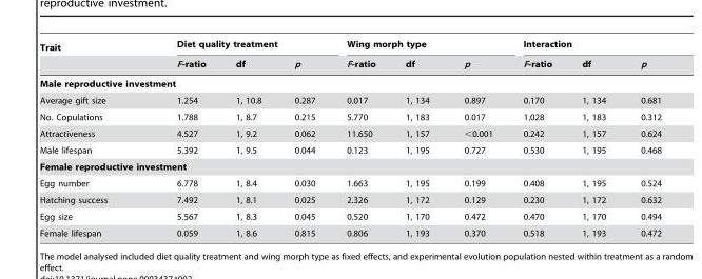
<table><thead><tr><td rowspan="2">Trait</td><td colspan="3">Diet quality treatment</td><td colspan="3">Wing morph type</td><td colspan="3">Interaction</td></tr><tr><td>F-ratio</td><td>df</td><td>p</td><td>F-ratio</td><td>df</td><td>p</td><td>F-ratio</td><td>df</td><td>p</td></tr></thead><tbody><tr><td colspan="10">Male reproductive investment</td></tr><tr><td>Average gift size</td><td>1.254</td><td>1, 10.8</td><td>0.287</td><td>0.017</td><td>1, 134</td><td>0.897</td><td>0.170</td><td>1, 134</td><td>0.681</td></tr><tr><td>No. Copulations</td><td>1.788</td><td>1, 8.7</td><td>0.215</td><td>5.770</td><td>1, 183</td><td>0.017</td><td>1.028</td><td>1, 183</td><td>0.312</td></tr><tr><td>Attractiveness</td><td>4.527</td><td>1, 9.2</td><td>0.062</td><td>11.650</td><td>1, 157</td><td>&lt;0.001</td><td>0.242</td><td>1, 157</td><td>0.624</td></tr><tr><td>Male lifespan</td><td>5.392</td><td>1, 9.5</td><td>0.044</td><td>0.123</td><td>1, 195</td><td>0.727</td><td>0.530</td><td>1, 195</td><td>0.468</td></tr><tr><td colspan="10">Female reproductive investment</td></tr><tr><td>Egg number</td><td>6.778</td><td>1, 8.4</td><td>0.030</td><td>1.663</td><td>1, 195</td><td>0.199</td><td>0.408</td><td>1, 195</td><td>0.524</td></tr><tr><td>Hatching success</td><td>7.492</td><td>1, 8.1</td><td>0.025</td><td>2.326</td><td>1, 172</td><td>0.129</td><td>0.230</td><td>1, 172</td><td>0.632</td></tr><tr><td>Egg size</td><td>5.567</td><td>1, 8.3</td><td>0.045</td><td>0.520</td><td>1, 170</td><td>0.472</td><td>0.470</td><td>1, 170</td><td>0.494</td></tr><tr><td>Female lifespan</td><td>0.059</td><td>1, 8.6</td><td>0.815</td><td>0.806</td><td>1, 193</td><td>0.370</td><td>0.518</td><td>1, 193</td><td>0.472</td></tr></tbody></table>